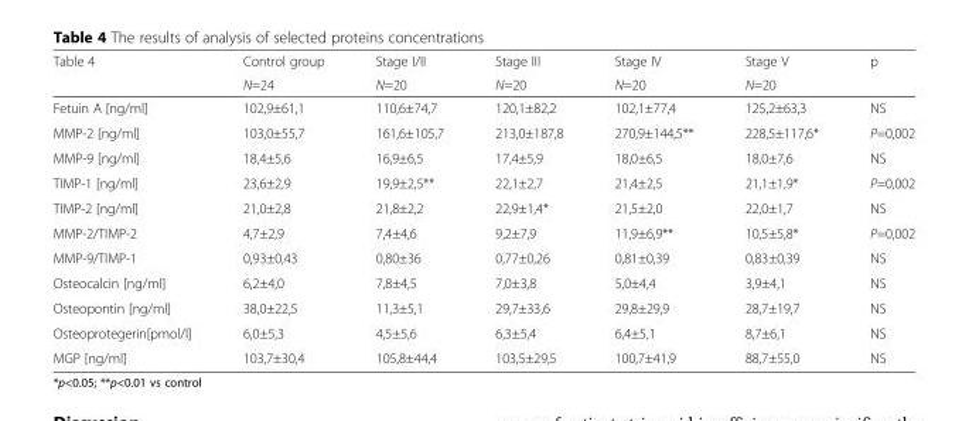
<table><thead><tr><td rowspan="2">Table 4</td><td rowspan="2">Control group N=24</td><td rowspan="2">Stage I/II N=20</td><td rowspan="2">Stage III N=20</td><td rowspan="2">Stage IV N=20</td><td rowspan="2">Stage V N=20</td><td rowspan="2">p</td></tr><tr></tr></thead><tbody><tr><td>Fetuin A [ng/ml]</td><td>102,9±61,1</td><td>110,6±74,7</td><td>120,1±82,2</td><td>102,1±77,4</td><td>125,2±63,3</td><td>NS</td></tr><tr><td>MMP-2 [ng/ml]</td><td>103,0±55,7</td><td>161,6±105,7</td><td>213,0±187,8</td><td>270,9±144,5**</td><td>228,5±117,6*</td><td>P=0,002</td></tr><tr><td>MMP-9 [ng/ml]</td><td>18,4±5,6</td><td>16,9±6,5</td><td>17,4±5,9</td><td>18,0±6,5</td><td>18,0±7,6</td><td>NS</td></tr><tr><td>TIMP-1 [ng/ml]</td><td>23,6±2,9</td><td>19,9±2,5**</td><td>22,1±2,7</td><td>21,4±2,5</td><td>21,1±1,9*</td><td>P=0,002</td></tr><tr><td>TIMP-2 [ng/ml]</td><td>21,0±2,8</td><td>21,8±2,2</td><td>22,9±1,4*</td><td>21,5±2,0</td><td>22,0±1,7</td><td>NS</td></tr><tr><td>MMP-2/TIMP-2</td><td>4,7±2,9</td><td>7,4±4,6</td><td>9,2±7,9</td><td>11,9±6,9**</td><td>10,5±5,8*</td><td>P=0,002</td></tr><tr><td>MMP-9/TIMP-1</td><td>0,93±0,43</td><td>0,80±36</td><td>0,77±0,26</td><td>0,81±0,39</td><td>0,83±0,39</td><td>NS</td></tr><tr><td>Osteocalcin [ng/ml]</td><td>6,2±4,0</td><td>7,8±4,5</td><td>7,0±3,8</td><td>5,0±4,4</td><td>3,9±4,1</td><td>NS</td></tr><tr><td>Osteopontin [ng/ml]</td><td>38,0±22,5</td><td>11,3±5,1</td><td>29,7±33,6</td><td>29,8±29,9</td><td>28,7±19,7</td><td>NS</td></tr><tr><td>Osteoprotegerin[pmol/l]</td><td>6,0±5,3</td><td>4,5±5,6</td><td>6,3±5,4</td><td>6,4±5,1</td><td>8,7±6,1</td><td>NS</td></tr><tr><td>MGP [ng/ml]</td><td>103,7±30,4</td><td>105,8±44,4</td><td>103,5±29,5</td><td>100,7±41,9</td><td>88,7±55,0</td><td>NS</td></tr></tbody></table>